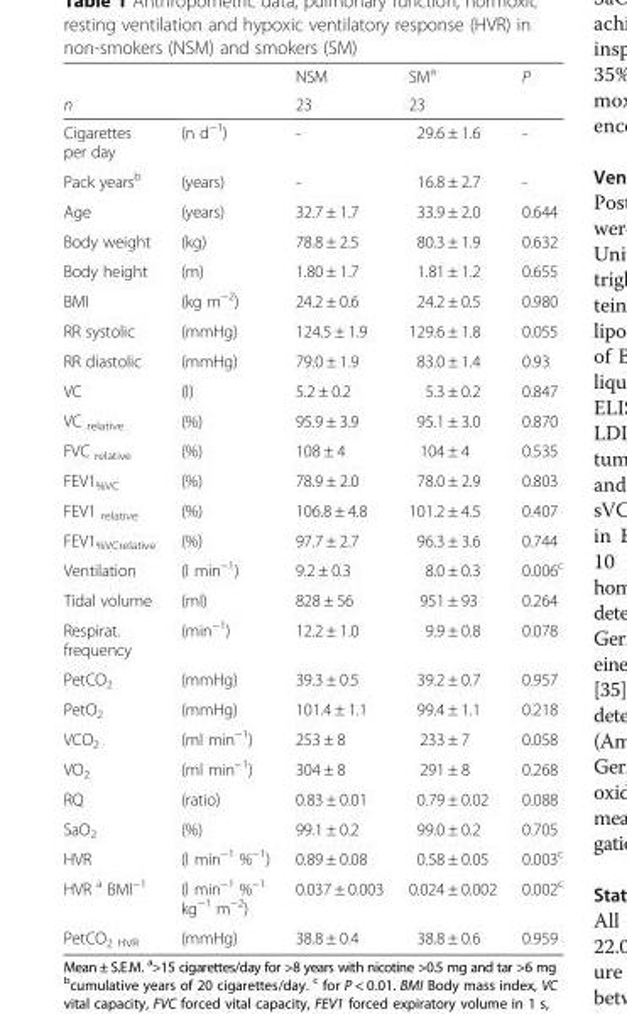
<table><thead><tr><td rowspan="2">n</td><td rowspan="2"></td><td rowspan="2">NSM 23</td><td rowspan="2">SM<sup>a</sup> 23</td><td rowspan="2">P</td></tr><tr></tr></thead><tbody><tr><td>Cigarettes per day</td><td>(n d<sup>−1</sup>)</td><td>-</td><td>29.6 ± 1.6</td><td>-</td></tr><tr><td>Pack years<sup>b</sup></td><td>(years)</td><td>-</td><td>16.8 ± 2.7</td><td>-</td></tr><tr><td>Age</td><td>(years)</td><td>32.7 ± 1.7</td><td>33.9 ± 2.0</td><td>0.644</td></tr><tr><td>Body weight</td><td>(kg)</td><td>78.8 ± 2.5</td><td>80.3 ± 1.9</td><td>0.632</td></tr><tr><td>Body height</td><td>(m)</td><td>1.80 ± 1.7</td><td>1.81 ± 1.2</td><td>0.655</td></tr><tr><td>BMI</td><td>(kg m<sup>−2</sup>)</td><td>24.2 ± 0.6</td><td>24.2 ± 0.5</td><td>0.980</td></tr><tr><td>RR systolic</td><td>(mmHg)</td><td>124.5 ± 1.9</td><td>129.6 ± 1.8</td><td>0.055</td></tr><tr><td>RR diastolic</td><td>(mmHg)</td><td>79.0 ± 1.9</td><td>83.0 ± 1.4</td><td>0.93</td></tr><tr><td>VC</td><td>(l)</td><td>5.2 ± 0.2</td><td>5.3 ± 0.2</td><td>0.847</td></tr><tr><td>VC <sub>relative</sub></td><td>(%)</td><td>95.9 ± 3.9</td><td>95.1 ± 3.0</td><td>0.870</td></tr><tr><td>FVC <sub>relative</sub></td><td>(%)</td><td>108 ± 4</td><td>104 ± 4</td><td>0.535</td></tr><tr><td>FEV1<sub>%VC</sub></td><td>(%)</td><td>78.9 ± 2.0</td><td>78.0 ± 2.9</td><td>0.803</td></tr><tr><td>FEV1 <sub>relative</sub></td><td>(%)</td><td>106.8 ± 4.8</td><td>101.2 ± 4.5</td><td>0.407</td></tr><tr><td>FEV1<sub>%VCrelative</sub></td><td>(%)</td><td>97.7 ± 2.7</td><td>96.3 ± 3.6</td><td>0.744</td></tr><tr><td>Ventilation</td><td>(l min<sup>−1</sup>)</td><td>9.2 ± 0.3</td><td>8.0 ± 0.3</td><td>0.006<sup>c</sup></td></tr><tr><td>Tidal volume</td><td>(ml)</td><td>828 ± 56</td><td>951 ± 93</td><td>0.264</td></tr><tr><td>Respirat. frequency</td><td>(min<sup>−1</sup>)</td><td>12.2 ± 1.0</td><td>9.9 ± 0.8</td><td>0.078</td></tr><tr><td>PetCO<sub>2</sub></td><td>(mmHg)</td><td>39.3 ± 0.5</td><td>39.2 ± 0.7</td><td>0.957</td></tr><tr><td>PetO<sub>2</sub></td><td>(mmHg)</td><td>101.4 ± 1.1</td><td>99.4 ± 1.1</td><td>0.218</td></tr><tr><td>VCO<sub>2</sub></td><td>(ml min<sup>−1</sup>)</td><td>253 ± 8</td><td>233 ± 7</td><td>0.058</td></tr><tr><td>VO<sub>2</sub></td><td>(ml min<sup>−1</sup>)</td><td>304 ± 8</td><td>291 ± 8</td><td>0.268</td></tr><tr><td>RQ</td><td>(ratio)</td><td>0.83 ± 0.01</td><td>0.79 ± 0.02</td><td>0.088</td></tr><tr><td>SaO<sub>2</sub></td><td>(%)</td><td>99.1 ± 0.2</td><td>99.0 ± 0.2</td><td>0.705</td></tr><tr><td>HVR</td><td>(l min<sup>−1</sup> %<sup>−1</sup>)</td><td>0.89 ± 0.08</td><td>0.58 ± 0.05</td><td>0.003<sup>c</sup></td></tr><tr><td>HVR <sup>a</sup> BMI<sup>−1</sup></td><td>(l min<sup>−1</sup> %<sup>−1</sup> kg<sup>−1</sup> m<sup>−2</sup>)</td><td>0.037 ± 0.003</td><td>0.024 ± 0.002</td><td>0.002<sup>c</sup></td></tr><tr><td>PetCO<sub>2 HVR</sub></td><td>(mmHg)</td><td>38.8 ± 0.4</td><td>38.8 ± 0.6</td><td>0.959</td></tr></tbody></table>